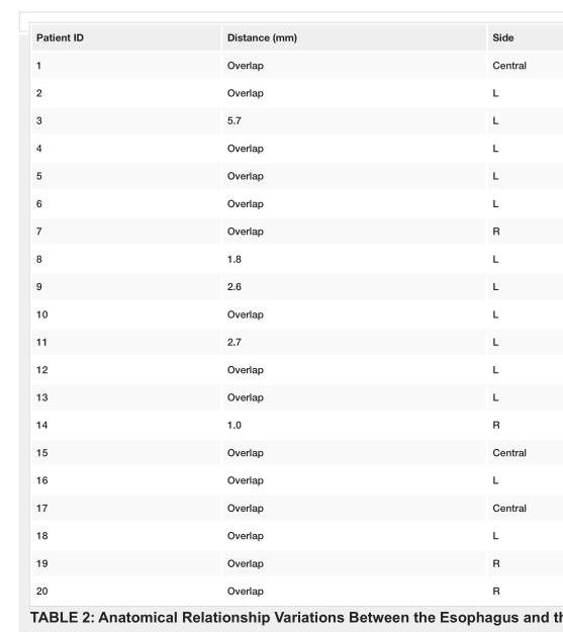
<table><tbody><tr><td>Patient ID</td><td>Distance (mm)</td><td>Side</td></tr><tr><td>1</td><td>Overlap</td><td>Central</td></tr><tr><td>2</td><td>Overlap</td><td>L</td></tr><tr><td>3</td><td>5.7</td><td>L</td></tr><tr><td>4</td><td>Overlap</td><td>L</td></tr><tr><td>5</td><td>Overlap</td><td>L</td></tr><tr><td>6</td><td>Overlap</td><td>L</td></tr><tr><td>7</td><td>Overlap</td><td>R</td></tr><tr><td>8</td><td>1.8</td><td>L</td></tr><tr><td>9</td><td>2.6</td><td>L</td></tr><tr><td>10</td><td>Overlap</td><td>L</td></tr><tr><td>11</td><td>2.7</td><td>L</td></tr><tr><td>12</td><td>Overlap</td><td>L</td></tr><tr><td>13</td><td>Overlap</td><td>L</td></tr><tr><td>14</td><td>1.0</td><td>R</td></tr><tr><td>15</td><td>Overlap</td><td>Central</td></tr><tr><td>16</td><td>Overlap</td><td>L</td></tr><tr><td>17</td><td>Overlap</td><td>Central</td></tr><tr><td>18</td><td>Overlap</td><td>L</td></tr><tr><td>19</td><td>Overlap</td><td>R</td></tr><tr><td>20</td><td>Overlap</td><td>R</td></tr></tbody></table>